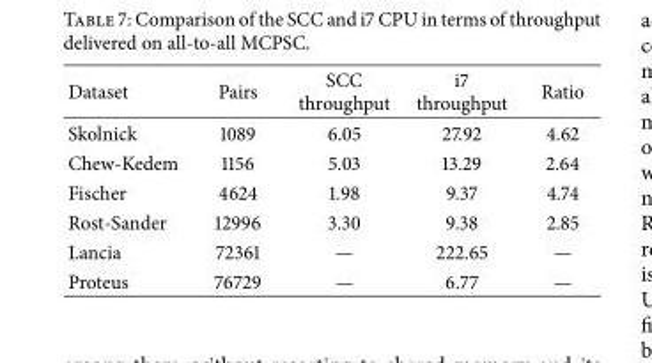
<table><thead><tr><td>Dataset</td><td>Pairs</td><td>SCC throughput</td><td>i7 throughput</td><td>Ratio</td></tr></thead><tbody><tr><td>Skolnick</td><td>1089</td><td>6.05</td><td>27.92</td><td>4.62</td></tr><tr><td>Chew-Kedem</td><td>1156</td><td>5.03</td><td>13.29</td><td>2.64</td></tr><tr><td>Fischer</td><td>4624</td><td>1.98</td><td>9.37</td><td>4.74</td></tr><tr><td>Rost-Sander</td><td>12996</td><td>3.30</td><td>9.38</td><td>2.85</td></tr><tr><td>Lancia</td><td>72361</td><td>—</td><td>222.65</td><td>—</td></tr><tr><td>Proteus</td><td>76729</td><td>—</td><td>6.77</td><td>—</td></tr></tbody></table>